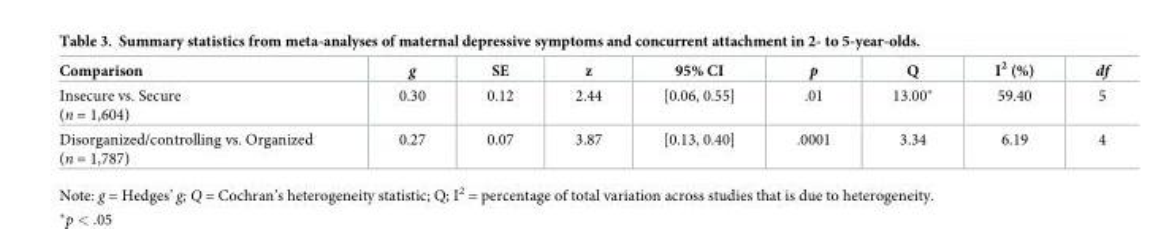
<table><thead><tr><td>Comparison</td><td>g</td><td>SE</td><td>z</td><td>95% CI</td><td>p</td><td>Q</td><td>I<sup>2</sup> (%)</td><td>df</td></tr></thead><tbody><tr><td>Insecure vs. Secure (n = 1,604)</td><td>0.30</td><td>0.12</td><td>2.44</td><td>[0.06, 0.55]</td><td>.01</td><td>13.00*</td><td>59.40</td><td>5</td></tr><tr><td>Disorganized/controlling vs. Organized (n = 1,787)</td><td>0.27</td><td>0.07</td><td>3.87</td><td>[0.13, 0.40]</td><td>.0001</td><td>3.34</td><td>6.19</td><td>4</td></tr></tbody></table>